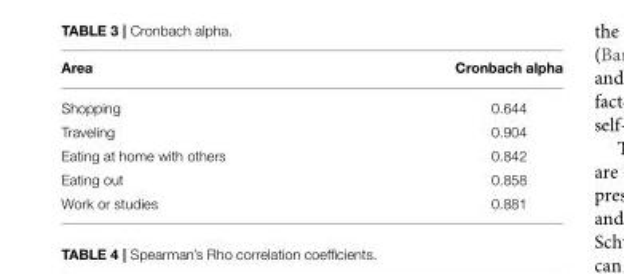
<table><thead><tr><td>Area</td><td>Cronbach alpha</td></tr></thead><tbody><tr><td>Shopping</td><td>0.644</td></tr><tr><td>Traveling</td><td>0.904</td></tr><tr><td>Eating at home with others</td><td>0.842</td></tr><tr><td>Eating out</td><td>0.858</td></tr><tr><td>Work or studies</td><td>0.881</td></tr></tbody></table>